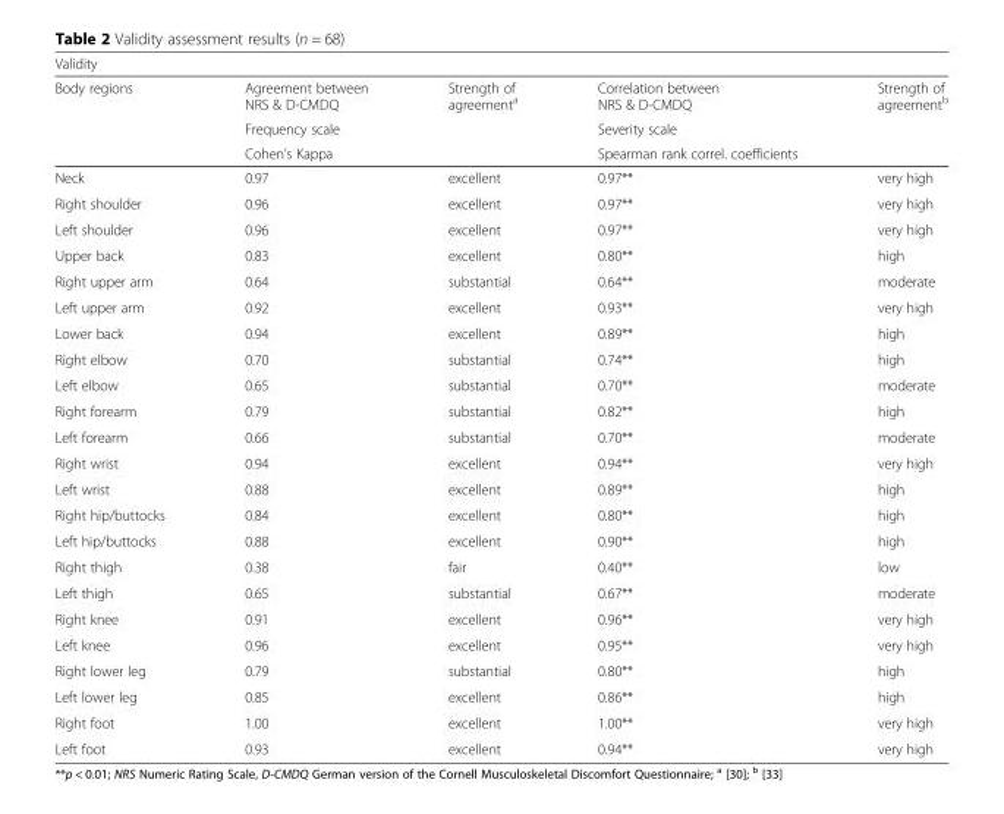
<table><thead><tr><td colspan="5">Validity</td></tr><tr><td rowspan="3">Body regions</td><td rowspan="3">Agreement between NRS &amp; D-CMDQ Frequency scale Cohen’s Kappa</td><td rowspan="3">Strength of agreement<sup>a</sup></td><td rowspan="3">Correlation between NRS &amp; D-CMDQ Severity scale Spearman rank correl. coefficients</td><td rowspan="3">Strength of agreement<sup>b</sup></td></tr><tr></tr><tr></tr></thead><tbody><tr><td>Neck</td><td>0.97</td><td>excellent</td><td>0.97**</td><td>very high</td></tr><tr><td>Right shoulder</td><td>0.96</td><td>excellent</td><td>0.97**</td><td>very high</td></tr><tr><td>Left shoulder</td><td>0.96</td><td>excellent</td><td>0.97**</td><td>very high</td></tr><tr><td>Upper back</td><td>0.83</td><td>excellent</td><td>0.80**</td><td>high</td></tr><tr><td>Right upper arm</td><td>0.64</td><td>substantial</td><td>0.64**</td><td>moderate</td></tr><tr><td>Left upper arm</td><td>0.92</td><td>excellent</td><td>0.93**</td><td>very high</td></tr><tr><td>Lower back</td><td>0.94</td><td>excellent</td><td>0.89**</td><td>high</td></tr><tr><td>Right elbow</td><td>0.70</td><td>substantial</td><td>0.74**</td><td>high</td></tr><tr><td>Left elbow</td><td>0.65</td><td>substantial</td><td>0.70**</td><td>moderate</td></tr><tr><td>Right forearm</td><td>0.79</td><td>substantial</td><td>0.82**</td><td>high</td></tr><tr><td>Left forearm</td><td>0.66</td><td>substantial</td><td>0.70**</td><td>moderate</td></tr><tr><td>Right wrist</td><td>0.94</td><td>excellent</td><td>0.94**</td><td>very high</td></tr><tr><td>Left wrist</td><td>0.88</td><td>excellent</td><td>0.89**</td><td>high</td></tr><tr><td>Right hip/buttocks</td><td>0.84</td><td>excellent</td><td>0.80**</td><td>high</td></tr><tr><td>Left hip/buttocks</td><td>0.88</td><td>excellent</td><td>0.90**</td><td>high</td></tr><tr><td>Right thigh</td><td>0.38</td><td>fair</td><td>0.40**</td><td>low</td></tr><tr><td>Left thigh</td><td>0.65</td><td>substantial</td><td>0.67**</td><td>moderate</td></tr><tr><td>Right knee</td><td>0.91</td><td>excellent</td><td>0.96**</td><td>very high</td></tr><tr><td>Left knee</td><td>0.96</td><td>excellent</td><td>0.95**</td><td>very high</td></tr><tr><td>Right lower leg</td><td>0.79</td><td>substantial</td><td>0.80**</td><td>high</td></tr><tr><td>Left lower leg</td><td>0.85</td><td>excellent</td><td>0.86**</td><td>high</td></tr><tr><td>Right foot</td><td>1.00</td><td>excellent</td><td>1.00**</td><td>very high</td></tr><tr><td>Left foot</td><td>0.93</td><td>excellent</td><td>0.94**</td><td>very high</td></tr></tbody></table>